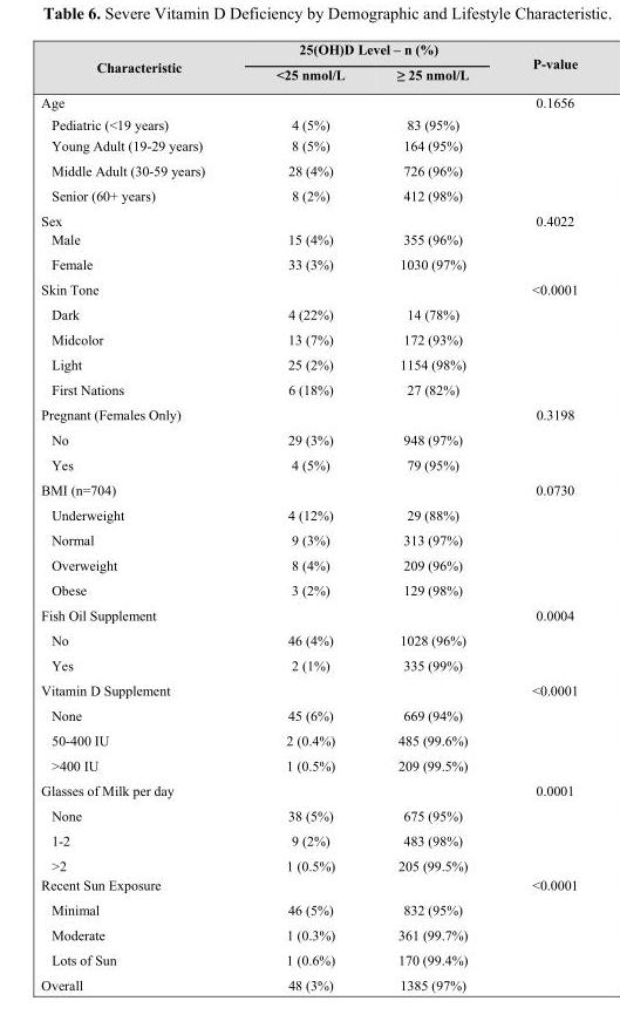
<table><thead><tr><td rowspan="2">Characteristic</td><td colspan="2">25(OH)D Level – n (%)</td><td rowspan="2">P-value</td></tr><tr><td>&lt;25 nmol/L</td><td>≥ 25 nmol/L</td></tr></thead><tbody><tr><td>Age</td><td></td><td></td><td>0.1656</td></tr><tr><td>Pediatric (&lt;19 years)</td><td>4 (5%)</td><td>83 (95%)</td><td></td></tr><tr><td>Young Adult (19-29 years)</td><td>8 (5%)</td><td>164 (95%)</td><td></td></tr><tr><td>Middle Adult (30-59 years)</td><td>28 (4%)</td><td>726 (96%)</td><td></td></tr><tr><td>Senior (60+ years)</td><td>8 (2%)</td><td>412 (98%)</td><td></td></tr><tr><td>Sex</td><td></td><td></td><td>0.4022</td></tr><tr><td>Male</td><td>15 (4%)</td><td>355 (96%)</td><td></td></tr><tr><td>Female</td><td>33 (3%)</td><td>1030 (97%)</td><td></td></tr><tr><td>Skin Tone</td><td></td><td></td><td>&lt;0.0001</td></tr><tr><td>Dark</td><td>4 (22%)</td><td>14 (78%)</td><td></td></tr><tr><td>Midcolor</td><td>13 (7%)</td><td>172 (93%)</td><td></td></tr><tr><td>Light</td><td>25 (2%)</td><td>1154 (98%)</td><td></td></tr><tr><td>First Nations</td><td>6 (18%)</td><td>27 (82%)</td><td></td></tr><tr><td>Pregnant (Females Only)</td><td></td><td></td><td>0.3198</td></tr><tr><td>No</td><td>29 (3%)</td><td>948 (97%)</td><td></td></tr><tr><td>Yes</td><td>4 (5%)</td><td>79 (95%)</td><td></td></tr><tr><td>BMI (n=704)</td><td></td><td></td><td>0.0730</td></tr><tr><td>Underweight</td><td>4 (12%)</td><td>29 (88%)</td><td></td></tr><tr><td>Normal</td><td>9 (3%)</td><td>313 (97%)</td><td></td></tr><tr><td>Overweight</td><td>8 (4%)</td><td>209 (96%)</td><td></td></tr><tr><td>Obese</td><td>3 (2%)</td><td>129 (98%)</td><td></td></tr><tr><td>Fish Oil Supplement</td><td></td><td></td><td>0.0004</td></tr><tr><td>No</td><td>46 (4%)</td><td>1028 (96%)</td><td></td></tr><tr><td>Yes</td><td>2 (1%)</td><td>335 (99%)</td><td></td></tr><tr><td>Vitamin D Supplement</td><td></td><td></td><td>&lt;0.0001</td></tr><tr><td>None</td><td>45 (6%)</td><td>669 (94%)</td><td></td></tr><tr><td>50-400 IU</td><td>2 (0.4%)</td><td>485 (99.6%)</td><td></td></tr><tr><td>&gt;400 IU</td><td>1 (0.5%)</td><td>209 (99.5%)</td><td></td></tr><tr><td>Glasses of Milk per day</td><td></td><td></td><td>0.0001</td></tr><tr><td>None</td><td>38 (5%)</td><td>675 (95%)</td><td></td></tr><tr><td>1-2</td><td>9 (2%)</td><td>483 (98%)</td><td></td></tr><tr><td>&gt;2</td><td>1 (0.5%)</td><td>205 (99.5%)</td><td></td></tr><tr><td>Recent Sun Exposure</td><td></td><td></td><td>&lt;0.0001</td></tr><tr><td>Minimal</td><td>46 (5%)</td><td>832 (95%)</td><td></td></tr><tr><td>Moderate</td><td>1 (0.3%)</td><td>361 (99.7%)</td><td></td></tr><tr><td>Lots of Sun</td><td>1 (0.6%)</td><td>170 (99.4%)</td><td></td></tr><tr><td>Overall</td><td>48 (3%)</td><td>1385 (97%)</td><td></td></tr></tbody></table>